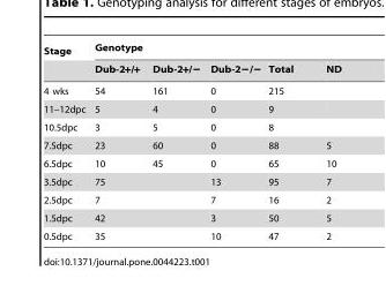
<table><thead><tr><td rowspan="2">Stage</td><td colspan="5">Genotype</td></tr><tr><td>Dub-2+/+</td><td>Dub-2+/−</td><td>Dub-2−/−</td><td>Total</td><td>ND</td></tr></thead><tbody><tr><td>4 wks</td><td>54</td><td>161</td><td>0</td><td>215</td><td></td></tr><tr><td>11–12dpc</td><td>5</td><td>4</td><td>0</td><td>9</td><td></td></tr><tr><td>10.5dpc</td><td>3</td><td>5</td><td>0</td><td>8</td><td></td></tr><tr><td>7.5dpc</td><td>23</td><td>60</td><td>0</td><td>88</td><td>5</td></tr><tr><td>6.5dpc</td><td>10</td><td>45</td><td>0</td><td>65</td><td>10</td></tr><tr><td>3.5dpc</td><td colspan="2">75</td><td>13</td><td>95</td><td>7</td></tr><tr><td>2.5dpc</td><td colspan="2">7</td><td>7</td><td>16</td><td>2</td></tr><tr><td>1.5dpc</td><td colspan="2">42</td><td>3</td><td>50</td><td>5</td></tr><tr><td>0.5dpc</td><td colspan="2">35</td><td>10</td><td>47</td><td>2</td></tr></tbody></table>